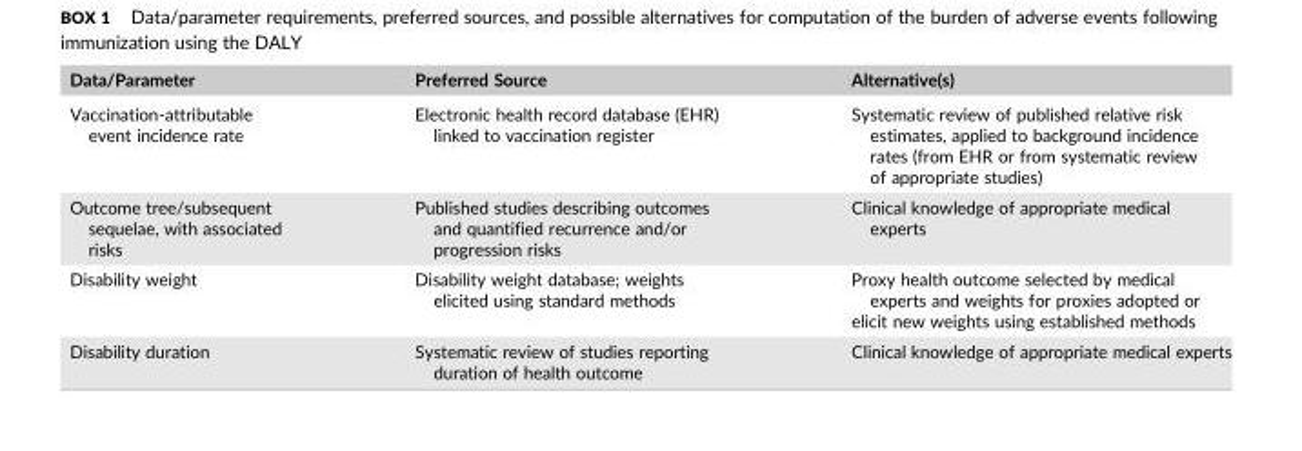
<table><thead><tr><td>Data/Parameter</td><td>Preferred Source</td><td>Alternative(s)</td></tr></thead><tbody><tr><td>Vaccination‐attributable event incidence rate</td><td>Electronic health record database (EHR) linked to vaccination register</td><td>Systematic review of published relative risk estimates, applied to background incidence rates (from EHR or from systematic review of appropriate studies)</td></tr><tr><td>Outcome tree/subsequent sequelae, with associated risks</td><td>Published studies describing outcomes and quantified recurrence and/or progression risks</td><td>Clinical knowledge of appropriate medical experts</td></tr><tr><td>Disability weight</td><td>Disability weight database; weights elicited using standard methods</td><td>Proxy health outcome selected by medical experts and weights for proxies adopted or elicit new weights using established methods</td></tr><tr><td>Disability duration</td><td>Systematic review of studies reporting duration of health outcome</td><td>Clinical knowledge of appropriate medical experts</td></tr></tbody></table>